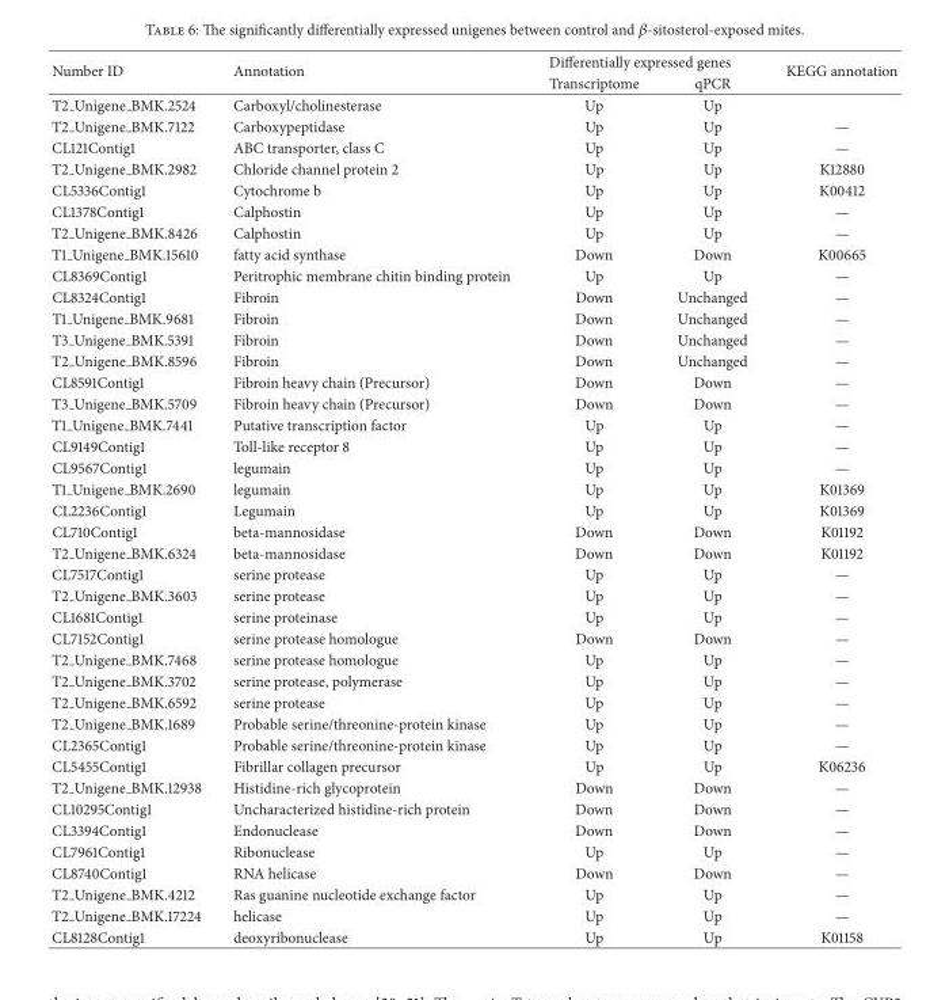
<table><thead><tr><td rowspan="2">Number ID</td><td rowspan="2">Annotation</td><td colspan="2">Differentially expressed genes</td><td rowspan="2">KEGG annotation</td></tr><tr><td>Transcriptome</td><td>qPCR</td></tr></thead><tbody><tr><td>T2 <sub>Unigene</sub> BMK.2524</td><td>Carboxyl/cholinesterase</td><td>Up</td><td>Up</td><td></td></tr><tr><td>T2 <sub>Unigene</sub> BMK.7122</td><td>Carboxypeptidase</td><td>Up</td><td>Up</td><td>—</td></tr><tr><td>CL121Contig1</td><td>ABC transporter, class C</td><td>Up</td><td>Up</td><td>—</td></tr><tr><td>T2 <sub>Unigene</sub> BMK.2982</td><td>Chloride channel protein 2</td><td>Up</td><td>Up</td><td>K12880</td></tr><tr><td>CL5336Contig1</td><td>Cytochrome b</td><td>Up</td><td>Up</td><td>K00412</td></tr><tr><td>CL1378Contig1</td><td>Calphostin</td><td>Up</td><td>Up</td><td>—</td></tr><tr><td>T2 <sub>Unigene</sub> BMK.8426</td><td>Calphostin</td><td>Up</td><td>Up</td><td>—</td></tr><tr><td>T1 <sub>Unigene</sub> BMK.15610</td><td>fatty acid synthase</td><td>Down</td><td>Down</td><td>K00665</td></tr><tr><td>CL8369Contig1</td><td>Peritrophic membrane chitin binding protein</td><td>Up</td><td>Up</td><td>—</td></tr><tr><td>CL8324Contig1</td><td>Fibroin</td><td>Down</td><td>Unchanged</td><td>—</td></tr><tr><td>T1 <sub>Unigene</sub> BMK.9681</td><td>Fibroin</td><td>Down</td><td>Unchanged</td><td>—</td></tr><tr><td>T3 <sub>Unigene</sub> BMK.5391</td><td>Fibroin</td><td>Down</td><td>Unchanged</td><td>—</td></tr><tr><td>T2 <sub>Unigene</sub> BMK.8596</td><td>Fibroin</td><td>Down</td><td>Unchanged</td><td>—</td></tr><tr><td>CL8591Contig1</td><td>Fibroin heavy chain (Precursor)</td><td>Down</td><td>Down</td><td>—</td></tr><tr><td>T3 <sub>Unigene</sub> BMK.5709</td><td>Fibroin heavy chain (Precursor)</td><td>Down</td><td>Down</td><td>—</td></tr><tr><td>T1 <sub>Unigene</sub> BMK.7441</td><td>Putative transcription factor</td><td>Up</td><td>Up</td><td>—</td></tr><tr><td>CL9149Contig1</td><td>Toll-like receptor 8</td><td>Up</td><td>Up</td><td>—</td></tr><tr><td>CL9567Contig1</td><td>legumain</td><td>Up</td><td>Up</td><td>—</td></tr><tr><td>T1 <sub>Unigene</sub> BMK.2690</td><td>legumain</td><td>Up</td><td>Up</td><td>K01369</td></tr><tr><td>CL2236Contig1</td><td>Legumain</td><td>Up</td><td>Up</td><td>K01369</td></tr><tr><td>CL710Contig1</td><td>beta-mannosidase</td><td>Down</td><td>Down</td><td>K01192</td></tr><tr><td>T2 <sub>Unigene</sub> BMK.6324</td><td>beta-mannosidase</td><td>Down</td><td>Down</td><td>K01192</td></tr><tr><td>CL7517Contig1</td><td>serine protease</td><td>Up</td><td>Up</td><td>—</td></tr><tr><td>T2 <sub>Unigene</sub> BMK.3603</td><td>serine protease</td><td>Up</td><td>Up</td><td>—</td></tr><tr><td>CL1681Contig1</td><td>serine proteinase</td><td>Up</td><td>Up</td><td>—</td></tr><tr><td>CL7152Contig1</td><td>serine protease homologue</td><td>Down</td><td>Down</td><td>—</td></tr><tr><td>T2 <sub>Unigene</sub> BMK.7468</td><td>serine protease homologue</td><td>Up</td><td>Up</td><td>—</td></tr><tr><td>T2 <sub>Unigene</sub> BMK.3702</td><td>serine protease, polymerase</td><td>Up</td><td>Up</td><td>—</td></tr><tr><td>T2 <sub>Unigene</sub> BMK.6592</td><td>serine protease</td><td>Up</td><td>Up</td><td>—</td></tr><tr><td>T2 <sub>Unigene</sub> BMK.1689</td><td>Probable serine/threonine-protein kinase</td><td>Up</td><td>Up</td><td>—</td></tr><tr><td>CL2365Contig1</td><td>Probable serine/threonine-protein kinase</td><td>Up</td><td>Up</td><td>—</td></tr><tr><td>CL5455Contig1</td><td>Fibrillar collagen precursor</td><td>Up</td><td>Up</td><td>K06236</td></tr><tr><td>T2 <sub>Unigene</sub> BMK.12938</td><td>Histidine-rich glycoprotein</td><td>Down</td><td>Down</td><td>—</td></tr><tr><td>CL10295Contig1</td><td>Uncharacterized histidine-rich protein</td><td>Down</td><td>Down</td><td>—</td></tr><tr><td>CL3394Contig1</td><td>Endonuclease</td><td>Down</td><td>Down</td><td>—</td></tr><tr><td>CL7961Contig1</td><td>Ribonuclease</td><td>Up</td><td>Up</td><td>—</td></tr><tr><td>CL8740Contig1</td><td>RNA helicase</td><td>Down</td><td>Down</td><td>—</td></tr><tr><td>T2 <sub>Unigene</sub> BMK.4212</td><td>Ras guanine nucleotide exchange factor</td><td>Up</td><td>Up</td><td>—</td></tr><tr><td>T2 <sub>Unigene</sub> BMK.17224</td><td>helicase</td><td>Up</td><td>Up</td><td>—</td></tr><tr><td>CL8128Contig1</td><td>deoxyribonuclease</td><td>Up</td><td>Up</td><td>K01158</td></tr></tbody></table>